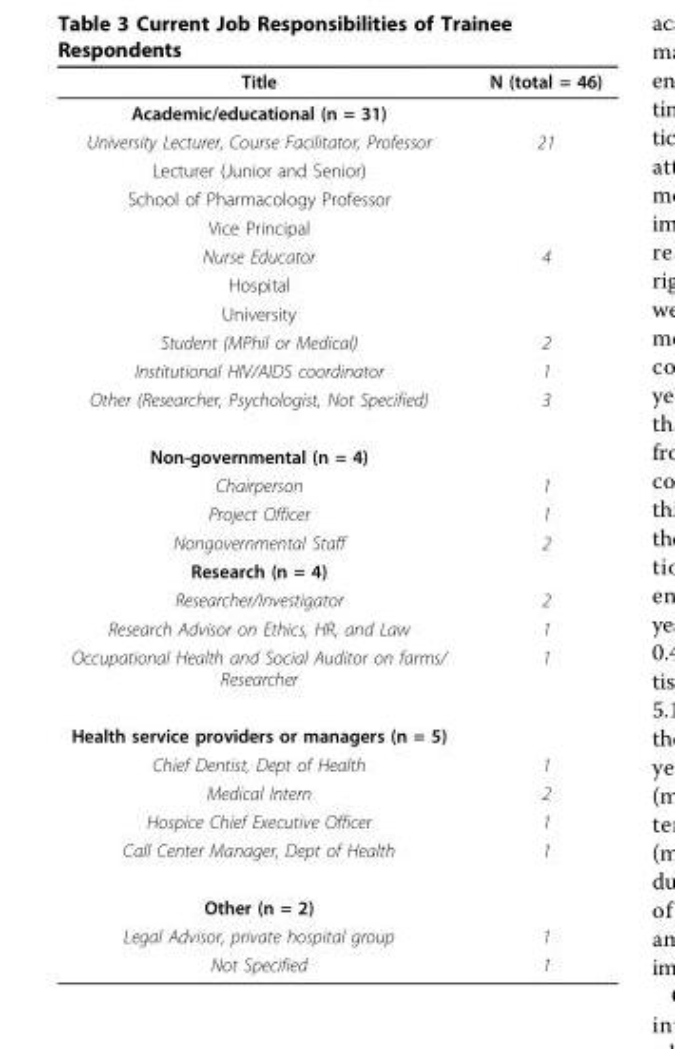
<table><thead><tr><td>Title</td><td>N (total = 46)</td></tr></thead><tbody><tr><td colspan="2">Academic/educational (n = 31)</td></tr><tr><td>University Lecturer, Course Facilitator, Professor</td><td>21</td></tr><tr><td colspan="2">Lecturer (Junior and Senior)</td></tr><tr><td colspan="2">School of Pharmacology Professor</td></tr><tr><td colspan="2">Vice Principal</td></tr><tr><td>Nurse Educator</td><td>4</td></tr><tr><td colspan="2">Hospital</td></tr><tr><td colspan="2">University</td></tr><tr><td>Student (MPhil or Medical)</td><td>2</td></tr><tr><td>Institutional HIV/AIDS coordinator</td><td>1</td></tr><tr><td>Other (Researcher, Psychologist, Not Specified)</td><td>3</td></tr><tr><td colspan="2">Non-governmental (n = 4)</td></tr><tr><td>Chairperson</td><td>1</td></tr><tr><td>Project Officer</td><td>1</td></tr><tr><td>Nongovernmental Staff</td><td>2</td></tr><tr><td colspan="2">Research (n = 4)</td></tr><tr><td>Researcher/Investigator</td><td>2</td></tr><tr><td>Research Advisor on Ethics, HR, and Law</td><td>1</td></tr><tr><td>Occupational Health and Social Auditor on farms/ Researcher</td><td>1</td></tr><tr><td colspan="2">Health service providers or managers (n = 5)</td></tr><tr><td>Chief Dentist, Dept of Health</td><td>1</td></tr><tr><td>Medical Intern</td><td>2</td></tr><tr><td>Hospice Chief Executive Officer</td><td>1</td></tr><tr><td>Call Center Manager, Dept of Health</td><td>1</td></tr><tr><td colspan="2">Other (n = 2)</td></tr><tr><td>Legal Advisor, private hospital group</td><td>1</td></tr><tr><td>Not Specified</td><td>1</td></tr></tbody></table>